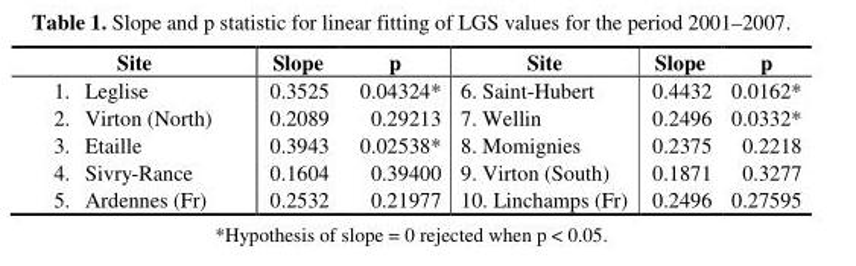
<table><thead><tr><td>Site</td><td>Slope</td><td>p</td><td>Site</td><td>Slope</td><td>p</td></tr></thead><tbody><tr><td>1. Leglise</td><td>0.3525</td><td>0.04324*</td><td>6. Saint-Hubert</td><td>0.4432</td><td>0.0162*</td></tr><tr><td>2. Virton (North)</td><td>0.2089</td><td>0.29213</td><td>7. Wellin</td><td>0.2496</td><td>0.0332*</td></tr><tr><td>3. Etaille</td><td>0.3943</td><td>0.02538*</td><td>8. Momignies</td><td>0.2375</td><td>0.2218</td></tr><tr><td>4. Sivry-Rance</td><td>0.1604</td><td>0.39400</td><td>9. Virton (South)</td><td>0.1871</td><td>0.3277</td></tr><tr><td>5. Ardennes (Fr)</td><td>0.2532</td><td>0.21977</td><td>10. Linchamps (Fr)</td><td>0.2496</td><td>0.27595</td></tr></tbody></table>